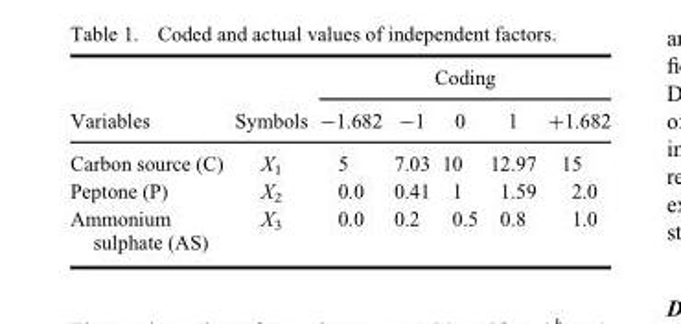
<table><thead><tr><td rowspan="2">Variables</td><td rowspan="2">Symbols</td><td colspan="5">Coding</td></tr><tr><td>−1.682</td><td>−1</td><td>0</td><td>1</td><td>+1.682</td></tr></thead><tbody><tr><td>Carbon source (C)</td><td>X<sub>1</sub></td><td>5</td><td>7.03</td><td>10</td><td>12.97</td><td>15</td></tr><tr><td>Peptone (P)</td><td>X<sub>2</sub></td><td>0.0</td><td>0.41</td><td>1</td><td>1.59</td><td>2.0</td></tr><tr><td>Ammonium sulphate (AS)</td><td>X<sub>3</sub></td><td>0.0</td><td>0.2</td><td>0.5</td><td>0.8</td><td>1.0</td></tr></tbody></table>